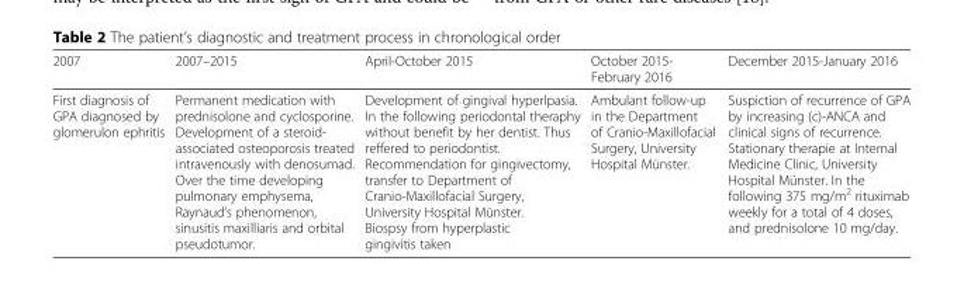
<table><thead><tr><td>2007</td><td>2007–2015</td><td>April-October 2015</td><td>October 2015- February 2016</td><td>December 2015-January 2016</td></tr></thead><tbody><tr><td>First diagnosis of GPA diagnosed by glomerulon ephritis</td><td>Permanent medication with prednisolone and cyclosporine. Development of a steroid- associated osteoporosis treated intravenously with denosumad. Over the time developing pulmonary emphysema, Raynaud’s phenomenon, sinusitis maxilliaris and orbital pseudotumor.</td><td>Development of gingival hyperlpasia. In the following periodontal theraphy without benefit by her dentist. Thus reffered to periodontist. Recommendation for gingivectomy, transfer to Department of Cranio-Maxillofacial Surgery, University Hospital Münster. Biospsy from hyperplastic gingivitis taken</td><td>Ambulant follow-up in the Department of Cranio-Maxillofacial Surgery, University Hospital Münster.</td><td>Suspiction of recurrence of GPA by increasing (c)-ANCA and clinical signs of recurrence. Stationary therapie at Internal Medicine Clinic, University Hospital Münster. In the following 375 mg/m<sup>2</sup> rituximab weekly for a total of 4 doses, and prednisolone 10 mg/day.</td></tr></tbody></table>